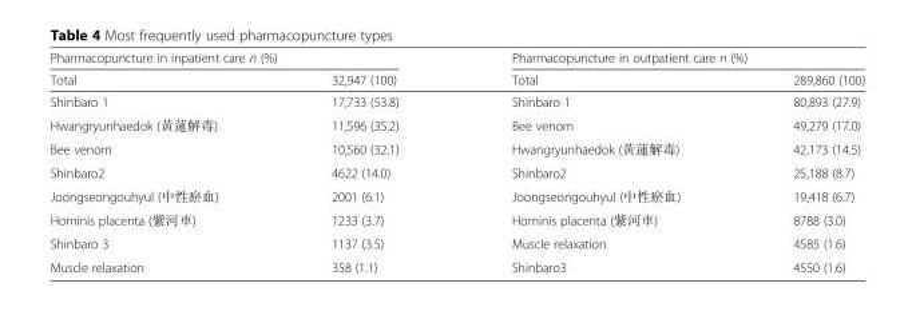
<table><thead><tr><td colspan="2">Pharmacopuncture in inpatient care n (%)</td><td colspan="2">Pharmacopuncture in outpatient care n (%)</td></tr><tr><td>Total</td><td>32,947 (100)</td><td>Total</td><td>289,860 (100)</td></tr></thead><tbody><tr><td>Shinbaro 1</td><td>17,733 (53.8)</td><td>Shinbaro 1</td><td>80,893 (27.9)</td></tr><tr><td>Hwangryunhaedok (黃蓮解毒)</td><td>11,596 (35.2)</td><td>Bee venom</td><td>49,279 (17.0)</td></tr><tr><td>Bee venom</td><td>10,560 (32.1)</td><td>Hwangryunhaedok (黃蓮解毒)</td><td>42,173 (14.5)</td></tr><tr><td>Shinbaro2</td><td>4622 (14.0)</td><td>Shinbaro2</td><td>25,188 (8.7)</td></tr><tr><td>Joongseongouhyul (中性瘀血)</td><td>2001 (6.1)</td><td>Joongseongouhyul (中性瘀血)</td><td>19,418 (6.7)</td></tr><tr><td>Hominis placenta (紫河車)</td><td>1233 (3.7)</td><td>Hominis placenta (紫河車)</td><td>8788 (3.0)</td></tr><tr><td>Shinbaro 3</td><td>1137 (3.5)</td><td>Muscle relaxation</td><td>4585 (1.6)</td></tr><tr><td>Muscle relaxation</td><td>358 (1.1)</td><td>Shinbaro3</td><td>4550 (1.6)</td></tr></tbody></table>